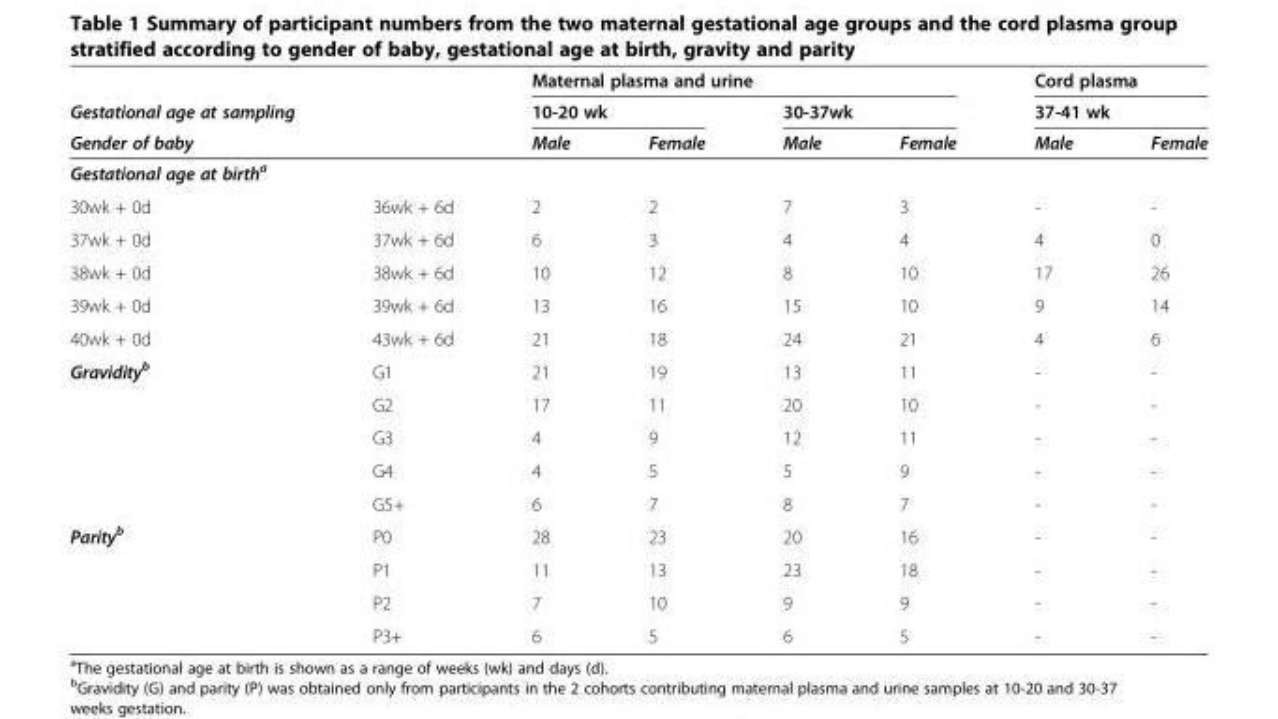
<table><thead><tr><td rowspan="2">Gestational age at sampling</td><td rowspan="2"></td><td colspan="4">Maternal plasma and urine</td><td rowspan="2" colspan="2">Cord plasma 37-41 wk</td></tr><tr><td colspan="2">10-20 wk</td><td colspan="2">30-37wk</td></tr><tr><td colspan="2">Gender of baby</td><td>Male</td><td>Female</td><td>Male</td><td>Female</td><td>Male</td><td>Female</td></tr></thead><tbody><tr><td colspan="8">Gestational age at birth<sup>a</sup></td></tr><tr><td>30wk + 0d</td><td>36wk + 6d</td><td>2</td><td>2</td><td>7</td><td>3</td><td>-</td><td>-</td></tr><tr><td>37wk + 0d</td><td>37wk + 6d</td><td>6</td><td>3</td><td>4</td><td>4</td><td>4</td><td>0</td></tr><tr><td>38wk + 0d</td><td>38wk + 6d</td><td>10</td><td>12</td><td>8</td><td>10</td><td>17</td><td>26</td></tr><tr><td>39wk + 0d</td><td>39wk + 6d</td><td>13</td><td>16</td><td>15</td><td>10</td><td>9</td><td>14</td></tr><tr><td>40wk + 0d</td><td>43wk + 6d</td><td>21</td><td>18</td><td>24</td><td>21</td><td>4</td><td>6</td></tr><tr><td rowspan="5">Gravidity<sup>b</sup></td><td>G1</td><td>21</td><td>19</td><td>13</td><td>11</td><td>-</td><td>-</td></tr><tr><td>G2</td><td>17</td><td>11</td><td>20</td><td>10</td><td>-</td><td>-</td></tr><tr><td>G3</td><td>4</td><td>9</td><td>12</td><td>11</td><td>-</td><td>-</td></tr><tr><td>G4</td><td>4</td><td>5</td><td>5</td><td>9</td><td>-</td><td>-</td></tr><tr><td>G5+</td><td>6</td><td>7</td><td>8</td><td>7</td><td>-</td><td>-</td></tr><tr><td rowspan="4">Parity<sup>b</sup></td><td>P0</td><td>28</td><td>23</td><td>20</td><td>16</td><td>-</td><td>-</td></tr><tr><td>P1</td><td>11</td><td>13</td><td>23</td><td>18</td><td>-</td><td>-</td></tr><tr><td>P2</td><td>7</td><td>10</td><td>9</td><td>9</td><td>-</td><td>-</td></tr><tr><td>P3+</td><td>6</td><td>5</td><td>6</td><td>5</td><td>-</td><td>-</td></tr></tbody></table>